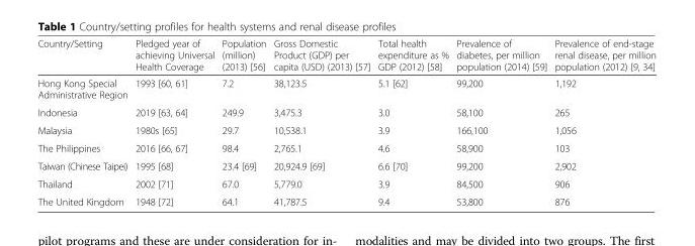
<table><thead><tr><td>Country/Setting</td><td>Pledged year of achieving Universal Health Coverage</td><td>Population (million) (2013) [56]</td><td>Gross Domestic Product (GDP) per capita (USD) (2013) [57]</td><td>Total health expenditure as % GDP (2012) [58]</td><td>Prevalence of diabetes, per million population (2014) [59]</td><td>Prevalence of end-stage renal disease, per million population (2012) [9, 34]</td></tr></thead><tbody><tr><td>Hong Kong Special Administrative Region</td><td>1993 [60, 61]</td><td>7.2</td><td>38,123.5</td><td>5.1 [62]</td><td>99,200</td><td>1,192</td></tr><tr><td>Indonesia</td><td>2019 [63, 64]</td><td>249.9</td><td>3,475.3</td><td>3.0</td><td>58,100</td><td>265</td></tr><tr><td>Malaysia</td><td>1980s [65]</td><td>29.7</td><td>10,538.1</td><td>3.9</td><td>166,100</td><td>1,056</td></tr><tr><td>The Philippines</td><td>2016 [66, 67]</td><td>98.4</td><td>2,765.1</td><td>4.6</td><td>58,900</td><td>103</td></tr><tr><td>Taiwan (Chinese Taipei)</td><td>1995 [68]</td><td>23.4 [69]</td><td>20,924.9 [69]</td><td>6.6 [70]</td><td>99,200</td><td>2,902</td></tr><tr><td>Thailand</td><td>2002 [71]</td><td>67.0</td><td>5,779.0</td><td>3.9</td><td>84,500</td><td>906</td></tr><tr><td>The United Kingdom</td><td>1948 [72]</td><td>64.1</td><td>41,787.5</td><td>9.4</td><td>53,800</td><td>876</td></tr></tbody></table>